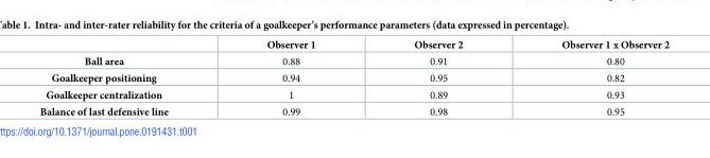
<table><thead><tr><td></td><td>Observer 1</td><td>Observer 2</td><td>Observer 1 x Observer 2</td></tr></thead><tbody><tr><td>Ball area</td><td>0.88</td><td>0.91</td><td>0.80</td></tr><tr><td>Goalkeeper positioning</td><td>0.94</td><td>0.95</td><td>0.82</td></tr><tr><td>Goalkeeper centralization</td><td>1</td><td>0.89</td><td>0.93</td></tr><tr><td>Balance of last defensive line</td><td>0.99</td><td>0.98</td><td>0.95</td></tr></tbody></table>